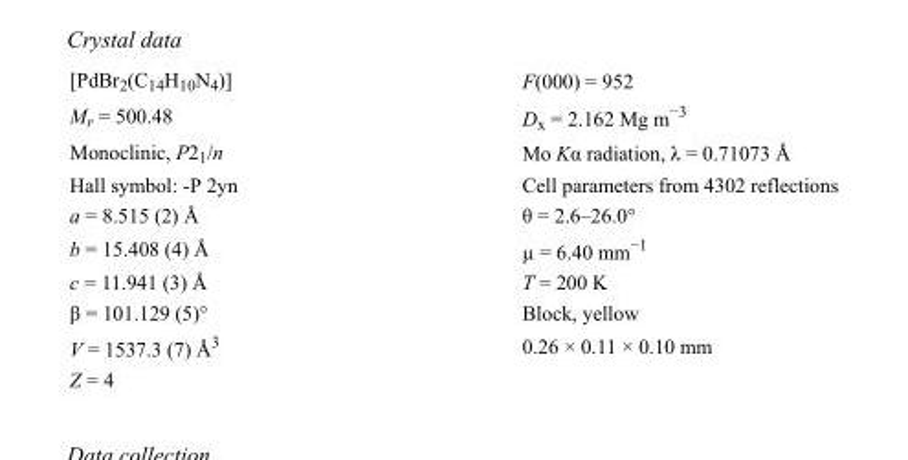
<table><tbody><tr><td>[PdBr<sub>2</sub>(C<sub>14</sub>H<sub>10</sub>N<sub>4</sub>)]</td><td>F(000) = 952</td></tr><tr><td>M<sub>r</sub> = 500.48</td><td>D<sub>x</sub> = 2.162 Mg m<sup>−3</sup></td></tr><tr><td>Monoclinic, P2<sub>1</sub>/n</td><td>Mo Kα radiation, λ = 0.71073 Å</td></tr><tr><td>Hall symbol: -P 2yn</td><td>Cell parameters from 4302 reflections</td></tr><tr><td>a = 8.515 (2) Å</td><td>θ = 2.6–26.0°</td></tr><tr><td>b = 15.408 (4) Å</td><td>µ = 6.40 mm<sup>−1</sup></td></tr><tr><td>c = 11.941 (3) Å</td><td>T = 200 K</td></tr><tr><td>β = 101.129 (5)°</td><td>Block, yellow</td></tr><tr><td>V = 1537.3 (7) Å<sup>3</sup></td><td>0.26 × 0.11 × 0.10 mm</td></tr><tr><td>Z = 4</td><td></td></tr></tbody></table>